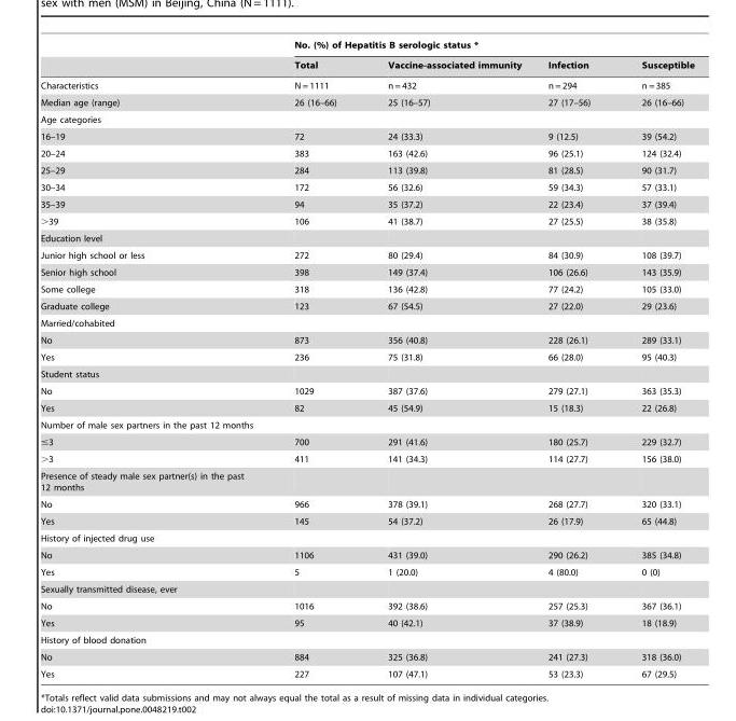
<table><thead><tr><td rowspan="2"></td><td colspan="4">No. (%) of Hepatitis B serologic status *</td></tr><tr><td>Total</td><td>Vaccine-associated immunity</td><td>Infection</td><td>Susceptible</td></tr></thead><tbody><tr><td>Characteristics</td><td>N = 1111</td><td>n = 432</td><td>n = 294</td><td>n = 385</td></tr><tr><td>Median age (range)</td><td>26 (16–66)</td><td>25 (16–57)</td><td>27 (17–56)</td><td>26 (16–66)</td></tr><tr><td colspan="5">Age categories</td></tr><tr><td>16–19</td><td>72</td><td>24 (33.3)</td><td>9 (12.5)</td><td>39 (54.2)</td></tr><tr><td>20–24</td><td>383</td><td>163 (42.6)</td><td>96 (25.1)</td><td>124 (32.4)</td></tr><tr><td>25–29</td><td>284</td><td>113 (39.8)</td><td>81 (28.5)</td><td>90 (31.7)</td></tr><tr><td>30–34</td><td>172</td><td>56 (32.6)</td><td>59 (34.3)</td><td>57 (33.1)</td></tr><tr><td>35–39</td><td>94</td><td>35 (37.2)</td><td>22 (23.4)</td><td>37 (39.4)</td></tr><tr><td>&gt;39</td><td>106</td><td>41 (38.7)</td><td>27 (25.5)</td><td>38 (35.8)</td></tr><tr><td colspan="5">Education level</td></tr><tr><td>Junior high school or less</td><td>272</td><td>80 (29.4)</td><td>84 (30.9)</td><td>108 (39.7)</td></tr><tr><td>Senior high school</td><td>398</td><td>149 (37.4)</td><td>106 (26.6)</td><td>143 (35.9)</td></tr><tr><td>Some college</td><td>318</td><td>136 (42.8)</td><td>77 (24.2)</td><td>105 (33.0)</td></tr><tr><td>Graduate college</td><td>123</td><td>67 (54.5)</td><td>27 (22.0)</td><td>29 (23.6)</td></tr><tr><td colspan="5">Married/cohabited</td></tr><tr><td>No</td><td>873</td><td>356 (40.8)</td><td>228 (26.1)</td><td>289 (33.1)</td></tr><tr><td>Yes</td><td>236</td><td>75 (31.8)</td><td>66 (28.0)</td><td>95 (40.3)</td></tr><tr><td colspan="5">Student status</td></tr><tr><td>No</td><td>1029</td><td>387 (37.6)</td><td>279 (27.1)</td><td>363 (35.3)</td></tr><tr><td>Yes</td><td>82</td><td>45 (54.9)</td><td>15 (18.3)</td><td>22 (26.8)</td></tr><tr><td colspan="5">Number of male sex partners in the past 12 months</td></tr><tr><td>≤3</td><td>700</td><td>291 (41.6)</td><td>180 (25.7)</td><td>229 (32.7)</td></tr><tr><td>&gt;3</td><td>411</td><td>141 (34.3)</td><td>114 (27.7)</td><td>156 (38.0)</td></tr><tr><td colspan="5">Presence of steady male sex partner(s) in the past 12 months</td></tr><tr><td>No</td><td>966</td><td>378 (39.1)</td><td>268 (27.7)</td><td>320 (33.1)</td></tr><tr><td>Yes</td><td>145</td><td>54 (37.2)</td><td>26 (17.9)</td><td>65 (44.8)</td></tr><tr><td colspan="5">History of injected drug use</td></tr><tr><td>No</td><td>1106</td><td>431 (39.0)</td><td>290 (26.2)</td><td>385 (34.8)</td></tr><tr><td>Yes</td><td>5</td><td>1 (20.0)</td><td>4 (80.0)</td><td>0 (0)</td></tr><tr><td colspan="5">Sexually transmitted disease, ever</td></tr><tr><td>No</td><td>1016</td><td>392 (38.6)</td><td>257 (25.3)</td><td>367 (36.1)</td></tr><tr><td>Yes</td><td>95</td><td>40 (42.1)</td><td>37 (38.9)</td><td>18 (18.9)</td></tr><tr><td colspan="5">History of blood donation</td></tr><tr><td>No</td><td>884</td><td>325 (36.8)</td><td>241 (27.3)</td><td>318 (36.0)</td></tr><tr><td>Yes</td><td>227</td><td>107 (47.1)</td><td>53 (23.3)</td><td>67 (29.5)</td></tr></tbody></table>